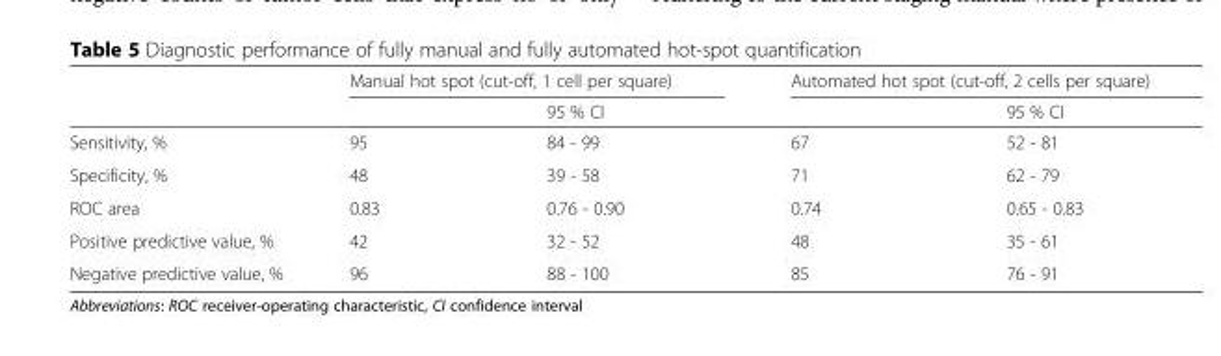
<table><thead><tr><td rowspan="2"></td><td colspan="2">Manual hot spot (cut-off, 1 cell per square)</td><td colspan="2">Automated hot spot (cut-off, 2 cells per square)</td></tr><tr><td></td><td>95 % CI</td><td></td><td>95 % CI</td></tr></thead><tbody><tr><td>Sensitivity, %</td><td>95</td><td>84 - 99</td><td>67</td><td>52 - 81</td></tr><tr><td>Specificity, %</td><td>48</td><td>39 - 58</td><td>71</td><td>62 - 79</td></tr><tr><td>ROC area</td><td>0.83</td><td>0.76 - 0.90</td><td>0.74</td><td>0.65 - 0.83</td></tr><tr><td>Positive predictive value, %</td><td>42</td><td>32 - 52</td><td>48</td><td>35 - 61</td></tr><tr><td>Negative predictive value, %</td><td>96</td><td>88 - 100</td><td>85</td><td>76 - 91</td></tr></tbody></table>